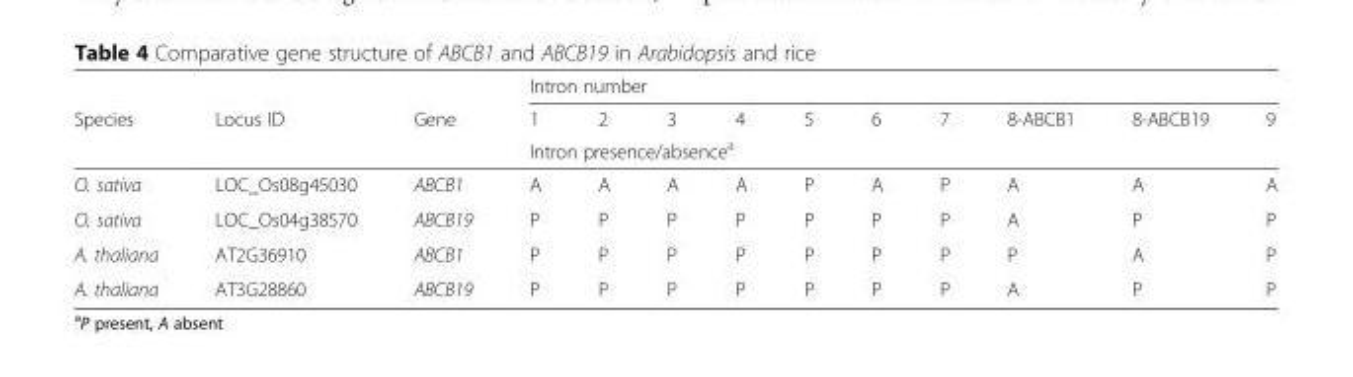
<table><thead><tr><td rowspan="3">Species</td><td rowspan="3">Locus ID</td><td rowspan="3">Gene</td><td colspan="10">Intron number</td></tr><tr><td>1</td><td>2</td><td>3</td><td>4</td><td>5</td><td>6</td><td>7</td><td>8-ABCB1</td><td>8-ABCB19</td><td>9</td></tr><tr><td colspan="10">Intron presence/absence<sup>a</sup></td></tr></thead><tbody><tr><td>O. sativa</td><td>LOC_Os08g45030</td><td>ABCB1</td><td>A</td><td>A</td><td>A</td><td>A</td><td>P</td><td>A</td><td>P</td><td>A</td><td>A</td><td>A</td></tr><tr><td>O. sativa</td><td>LOC_Os04g38570</td><td>ABCB19</td><td>P</td><td>P</td><td>P</td><td>P</td><td>P</td><td>P</td><td>P</td><td>A</td><td>P</td><td>P</td></tr><tr><td>A. thaliana</td><td>AT2G36910</td><td>ABCB1</td><td>P</td><td>P</td><td>P</td><td>P</td><td>P</td><td>P</td><td>P</td><td>P</td><td>A</td><td>P</td></tr><tr><td>A. thaliana</td><td>AT3G28860</td><td>ABCB19</td><td>P</td><td>P</td><td>P</td><td>P</td><td>P</td><td>P</td><td>P</td><td>A</td><td>P</td><td>P</td></tr></tbody></table>